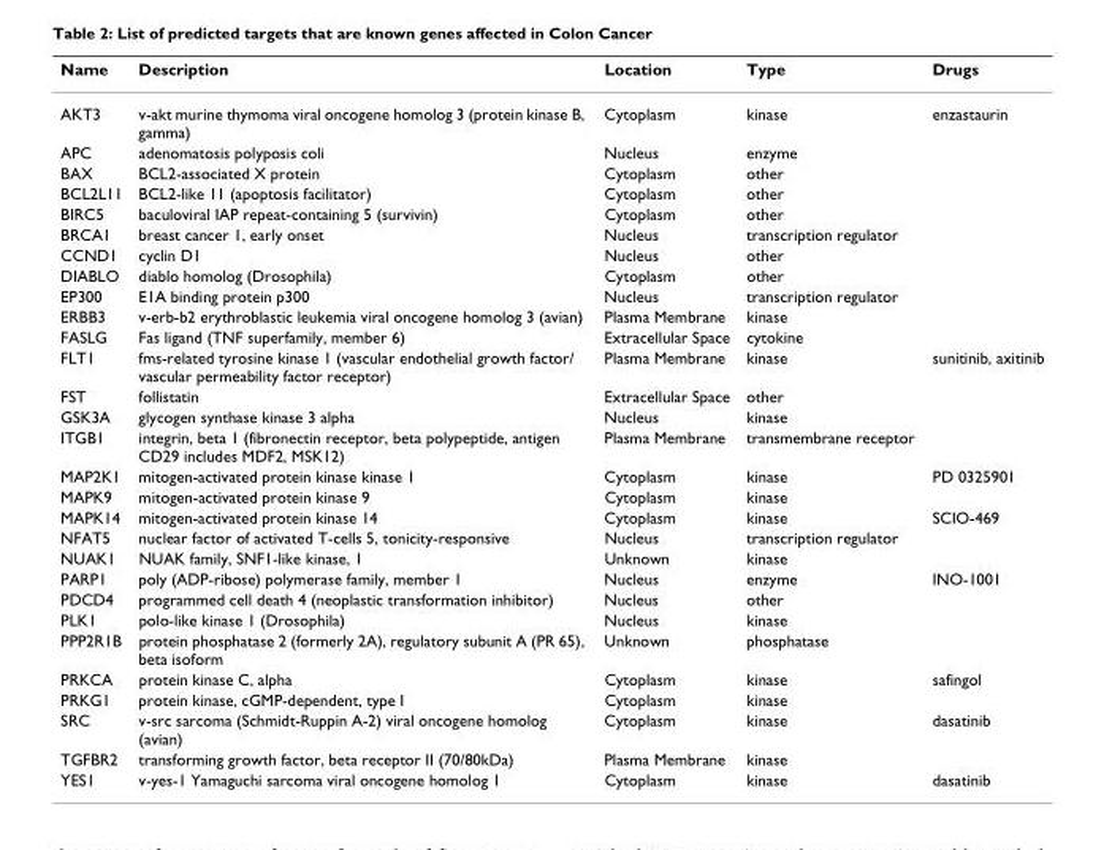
<table><thead><tr><td>Name</td><td>Description</td><td>Location</td><td>Type</td><td>Drugs</td></tr></thead><tbody><tr><td>AKT3</td><td>v-akt murine thymoma viral oncogene homolog 3 (protein kinase B, gamma)</td><td>Cytoplasm</td><td>kinase</td><td>enzastaurin</td></tr><tr><td>APC</td><td>adenomatosis polyposis coli</td><td>Nucleus</td><td>enzyme</td><td></td></tr><tr><td>BAX</td><td>BCL2-associated X protein</td><td>Cytoplasm</td><td>other</td><td></td></tr><tr><td>BCL2L11</td><td>BCL2-like 11 (apoptosis facilitator)</td><td>Cytoplasm</td><td>other</td><td></td></tr><tr><td>BIRC5</td><td>baculoviral IAP repeat-containing 5 (survivin)</td><td>Cytoplasm</td><td>other</td><td></td></tr><tr><td>BRCA1</td><td>breast cancer 1, early onset</td><td>Nucleus</td><td>transcription regulator</td><td></td></tr><tr><td>CCND1</td><td>cyclin D1</td><td>Nucleus</td><td>other</td><td></td></tr><tr><td>DIABLO</td><td>diablo homolog (Drosophila)</td><td>Cytoplasm</td><td>other</td><td></td></tr><tr><td>EP300</td><td>E1A binding protein p300</td><td>Nucleus</td><td>transcription regulator</td><td></td></tr><tr><td>ERBB3</td><td>v-erb-b2 erythroblastic leukemia viral oncogene homolog 3 (avian)</td><td>Plasma Membrane</td><td>kinase</td><td></td></tr><tr><td>FASLG</td><td>Fas ligand (TNF superfamily, member 6)</td><td>Extracellular Space</td><td>cytokine</td><td></td></tr><tr><td>FLT1</td><td>fms-related tyrosine kinase 1 (vascular endothelial growth factor/ vascular permeability factor receptor)</td><td>Plasma Membrane</td><td>kinase</td><td>sunitinib, axitinib</td></tr><tr><td>FST</td><td>follistatin</td><td>Extracellular Space</td><td>other</td><td></td></tr><tr><td>GSK3A</td><td>glycogen synthase kinase 3 alpha</td><td>Nucleus</td><td>kinase</td><td></td></tr><tr><td>ITGB1</td><td>integrin, beta 1 (fibronectin receptor, beta polypeptide, antigen CD29 includes MDF2, MSK12)</td><td>Plasma Membrane</td><td>transmembrane receptor</td><td></td></tr><tr><td>MAP2K1</td><td>mitogen-activated protein kinase kinase 1</td><td>Cytoplasm</td><td>kinase</td><td>PD 0325901</td></tr><tr><td>MAPK9</td><td>mitogen-activated protein kinase 9</td><td>Cytoplasm</td><td>kinase</td><td></td></tr><tr><td>MAPK14</td><td>mitogen-activated protein kinase 14</td><td>Cytoplasm</td><td>kinase</td><td>SCIO-469</td></tr><tr><td>NFAT5</td><td>nuclear factor of activated T-cells 5, tonicity-responsive</td><td>Nucleus</td><td>transcription regulator</td><td></td></tr><tr><td>NUAK1</td><td>NUAK family, SNF1-like kinase, 1</td><td>Unknown</td><td>kinase</td><td></td></tr><tr><td>PARP1</td><td>poly (ADP-ribose) polymerase family, member 1</td><td>Nucleus</td><td>enzyme</td><td>INO-1001</td></tr><tr><td>PDCD4</td><td>programmed cell death 4 (neoplastic transformation inhibitor)</td><td>Nucleus</td><td>other</td><td></td></tr><tr><td>PLK1</td><td>polo-like kinase 1 (Drosophila)</td><td>Nucleus</td><td>kinase</td><td></td></tr><tr><td>PPP2R1B</td><td>protein phosphatase 2 (formerly 2A), regulatory subunit A (PR 65), beta isoform</td><td>Unknown</td><td>phosphatase</td><td></td></tr><tr><td>PRKCA</td><td>protein kinase C, alpha</td><td>Cytoplasm</td><td>kinase</td><td>safingol</td></tr><tr><td>PRKG1</td><td>protein kinase, cGMP-dependent, type I</td><td>Cytoplasm</td><td>kinase</td><td></td></tr><tr><td>SRC</td><td>v-src sarcoma (Schmidt-Ruppin A-2) viral oncogene homolog (avian)</td><td>Cytoplasm</td><td>kinase</td><td>dasatinib</td></tr><tr><td>TGFBR2</td><td>transforming growth factor, beta receptor II (70/80kDa)</td><td>Plasma Membrane</td><td>kinase</td><td></td></tr><tr><td>YES1</td><td>v-yes-1 Yamaguchi sarcoma viral oncogene homolog 1</td><td>Cytoplasm</td><td>kinase</td><td>dasatinib</td></tr></tbody></table>